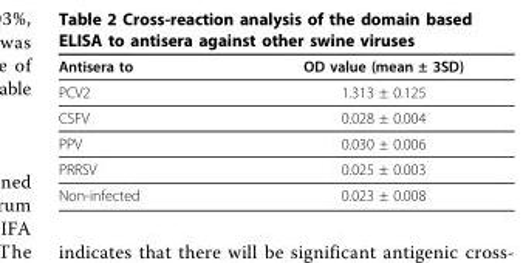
<table><thead><tr><td>Antisera to</td><td>OD value (mean ± 3SD)</td></tr></thead><tbody><tr><td>PCV2</td><td>1.313 ± 0.125</td></tr><tr><td>CSFV</td><td>0.028 ± 0.004</td></tr><tr><td>PPV</td><td>0.030 ± 0.006</td></tr><tr><td>PRRSV</td><td>0.025 ± 0.003</td></tr><tr><td>Non-infected</td><td>0.023 ± 0.008</td></tr></tbody></table>